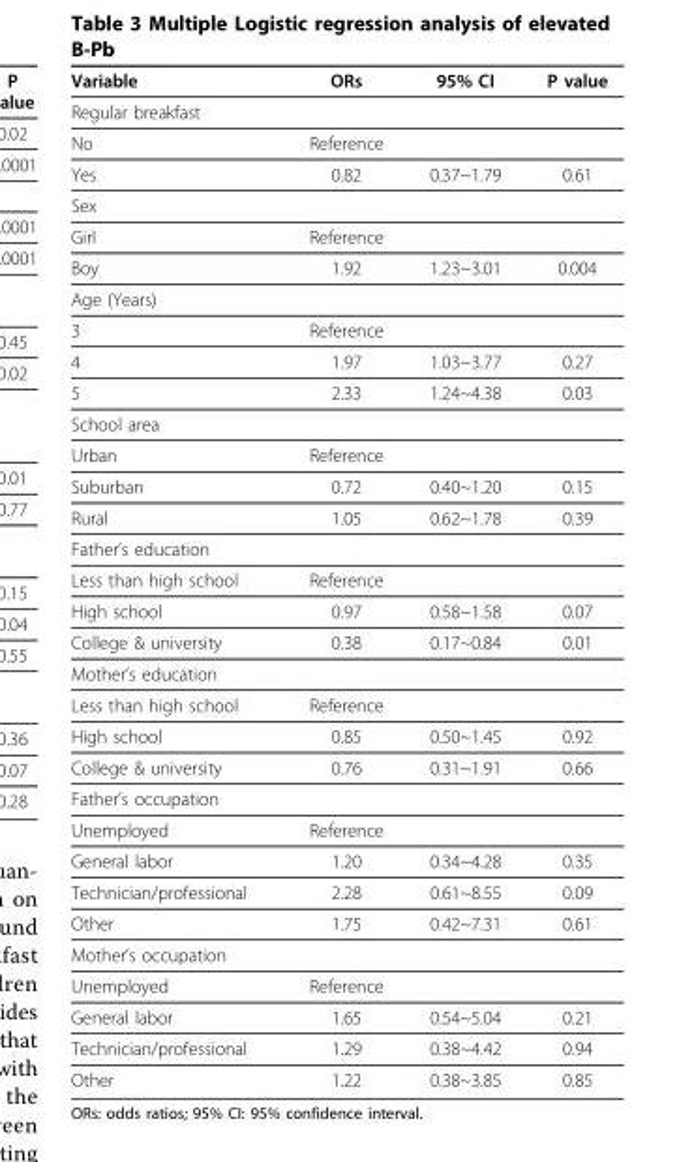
<table><thead><tr><td>Variable</td><td>ORs</td><td>95% CI</td><td>P value</td></tr></thead><tbody><tr><td colspan="4">Regular breakfast</td></tr><tr><td>No</td><td>Reference</td><td></td><td></td></tr><tr><td>Yes</td><td>0.82</td><td>0.37~1.79</td><td>0.61</td></tr><tr><td colspan="4">Sex</td></tr><tr><td>Girl</td><td>Reference</td><td></td><td></td></tr><tr><td>Boy</td><td>1.92</td><td>1.23~3.01</td><td>0.004</td></tr><tr><td colspan="4">Age (Years)</td></tr><tr><td>3</td><td>Reference</td><td></td><td></td></tr><tr><td>4</td><td>1.97</td><td>1.03~3.77</td><td>0.27</td></tr><tr><td>5</td><td>2.33</td><td>1.24~4.38</td><td>0.03</td></tr><tr><td colspan="4">School area</td></tr><tr><td>Urban</td><td>Reference</td><td></td><td></td></tr><tr><td>Suburban</td><td>0.72</td><td>0.40~1.20</td><td>0.15</td></tr><tr><td>Rural</td><td>1.05</td><td>0.62~1.78</td><td>0.39</td></tr><tr><td colspan="4">Father’s education</td></tr><tr><td>Less than high school</td><td>Reference</td><td></td><td></td></tr><tr><td>High school</td><td>0.97</td><td>0.58~1.58</td><td>0.07</td></tr><tr><td>College &amp; university</td><td>0.38</td><td>0.17~0.84</td><td>0.01</td></tr><tr><td colspan="4">Mother’s education</td></tr><tr><td>Less than high school</td><td>Reference</td><td></td><td></td></tr><tr><td>High school</td><td>0.85</td><td>0.50~1.45</td><td>0.92</td></tr><tr><td>College &amp; university</td><td>0.76</td><td>0.31~1.91</td><td>0.66</td></tr><tr><td colspan="4">Father’s occupation</td></tr><tr><td>Unemployed</td><td>Reference</td><td></td><td></td></tr><tr><td>General labor</td><td>1.20</td><td>0.34~4.28</td><td>0.35</td></tr><tr><td>Technician/professional</td><td>2.28</td><td>0.61~8.55</td><td>0.09</td></tr><tr><td>Other</td><td>1.75</td><td>0.42~7.31</td><td>0.61</td></tr><tr><td colspan="4">Mother’s occupation</td></tr><tr><td>Unemployed</td><td>Reference</td><td></td><td></td></tr><tr><td>General labor</td><td>1.65</td><td>0.54~5.04</td><td>0.21</td></tr><tr><td>Technician/professional</td><td>1.29</td><td>0.38~4.42</td><td>0.94</td></tr><tr><td>Other</td><td>1.22</td><td>0.38~3.85</td><td>0.85</td></tr></tbody></table>